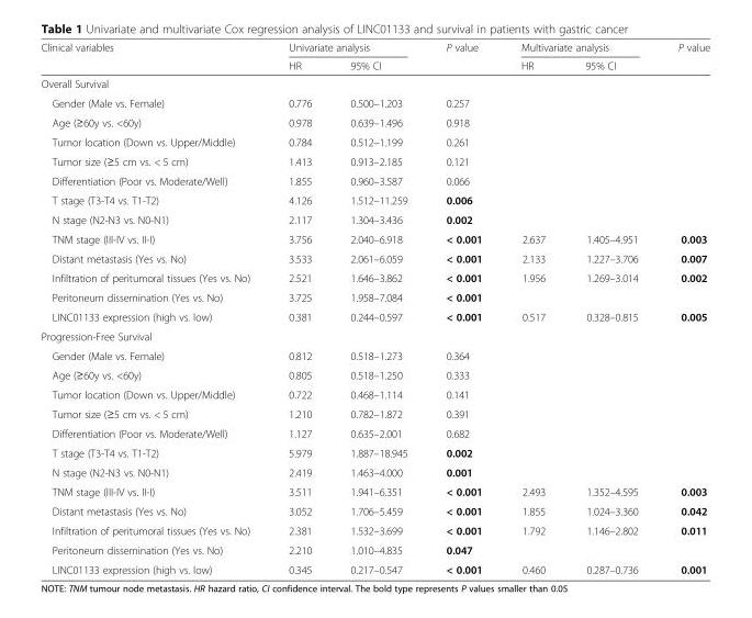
<table><thead><tr><td rowspan="2">Clinical variables</td><td colspan="2">Univariate analysis</td><td rowspan="2">P value</td><td colspan="2">Multivariate analysis</td><td rowspan="2">P value</td></tr><tr><td>HR</td><td>95% CI</td><td>HR</td><td>95% CI</td></tr></thead><tbody><tr><td colspan="7">Overall Survival</td></tr><tr><td>Gender (Male vs. Female)</td><td>0.776</td><td>0.500–1.203</td><td>0.257</td><td></td><td></td><td></td></tr><tr><td>Age (≥60y vs. &lt;60y)</td><td>0.978</td><td>0.639–1.496</td><td>0.918</td><td></td><td></td><td></td></tr><tr><td>Tumor location (Down vs. Upper/Middle)</td><td>0.784</td><td>0.512–1.199</td><td>0.261</td><td></td><td></td><td></td></tr><tr><td>Tumor size (≥5 cm vs. &lt; 5 cm)</td><td>1.413</td><td>0.913–2.185</td><td>0.121</td><td></td><td></td><td></td></tr><tr><td>Differentiation (Poor vs. Moderate/Well)</td><td>1.855</td><td>0.960–3.587</td><td>0.066</td><td></td><td></td><td></td></tr><tr><td>T stage (T3-T4 vs. T1-T2)</td><td>4.126</td><td>1.512–11.259</td><td>0.006</td><td></td><td></td><td></td></tr><tr><td>N stage (N2-N3 vs. N0-N1)</td><td>2.117</td><td>1.304–3.436</td><td>0.002</td><td></td><td></td><td></td></tr><tr><td>TNM stage (III-IV vs. II-I)</td><td>3.756</td><td>2.040–6.918</td><td>&lt; 0.001</td><td>2.637</td><td>1.405–4.951</td><td>0.003</td></tr><tr><td>Distant metastasis (Yes vs. No)</td><td>3.533</td><td>2.061–6.059</td><td>&lt; 0.001</td><td>2.133</td><td>1.227–3.706</td><td>0.007</td></tr><tr><td>Infiltration of peritumoral tissues (Yes vs. No)</td><td>2.521</td><td>1.646–3.862</td><td>&lt; 0.001</td><td>1.956</td><td>1.269–3.014</td><td>0.002</td></tr><tr><td>Peritoneum dissemination (Yes vs. No)</td><td>3.725</td><td>1.958–7.084</td><td>&lt; 0.001</td><td></td><td></td><td></td></tr><tr><td>LINC01133 expression (high vs. low)</td><td>0.381</td><td>0.244–0.597</td><td>&lt; 0.001</td><td>0.517</td><td>0.328–0.815</td><td>0.005</td></tr><tr><td colspan="7">Progression-Free Survival</td></tr><tr><td>Gender (Male vs. Female)</td><td>0.812</td><td>0.518–1.273</td><td>0.364</td><td></td><td></td><td></td></tr><tr><td>Age (≥60y vs. &lt;60y)</td><td>0.805</td><td>0.518–1.250</td><td>0.333</td><td></td><td></td><td></td></tr><tr><td>Tumor location (Down vs. Upper/Middle)</td><td>0.722</td><td>0.468–1.114</td><td>0.141</td><td></td><td></td><td></td></tr><tr><td>Tumor size (≥5 cm vs. &lt; 5 cm)</td><td>1.210</td><td>0.782–1.872</td><td>0.391</td><td></td><td></td><td></td></tr><tr><td>Differentiation (Poor vs. Moderate/Well)</td><td>1.127</td><td>0.635–2.001</td><td>0.682</td><td></td><td></td><td></td></tr><tr><td>T stage (T3-T4 vs. T1-T2)</td><td>5.979</td><td>1.887–18.945</td><td>0.002</td><td></td><td></td><td></td></tr><tr><td>N stage (N2-N3 vs. N0-N1)</td><td>2.419</td><td>1.463–4.000</td><td>0.001</td><td></td><td></td><td></td></tr><tr><td>TNM stage (III-IV vs. II-I)</td><td>3.511</td><td>1.941–6.351</td><td>&lt; 0.001</td><td>2.493</td><td>1.352–4.595</td><td>0.003</td></tr><tr><td>Distant metastasis (Yes vs. No)</td><td>3.052</td><td>1.706–5.459</td><td>&lt; 0.001</td><td>1.855</td><td>1.024–3.360</td><td>0.042</td></tr><tr><td>Infiltration of peritumoral tissues (Yes vs. No)</td><td>2.381</td><td>1.532–3.699</td><td>&lt; 0.001</td><td>1.792</td><td>1.146–2.802</td><td>0.011</td></tr><tr><td>Peritoneum dissemination (Yes vs. No)</td><td>2.210</td><td>1.010–4.835</td><td>0.047</td><td></td><td></td><td></td></tr><tr><td>LINC01133 expression (high vs. low)</td><td>0.345</td><td>0.217–0.547</td><td>&lt; 0.001</td><td>0.460</td><td>0.287–0.736</td><td>0.001</td></tr></tbody></table>